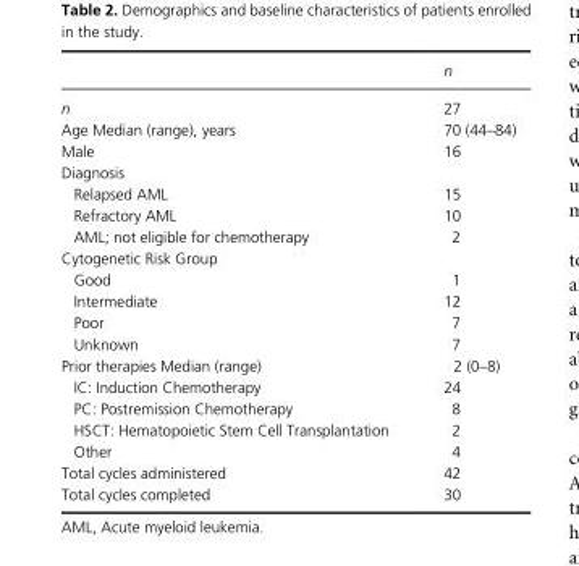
<table><thead><tr><td></td><td>n</td></tr></thead><tbody><tr><td>n</td><td>27</td></tr><tr><td>Age Median (range), years</td><td>70 (44–84)</td></tr><tr><td>Male</td><td>16</td></tr><tr><td colspan="2">Diagnosis</td></tr><tr><td>Relapsed AML</td><td>15</td></tr><tr><td>Refractory AML</td><td>10</td></tr><tr><td>AML; not eligible for chemotherapy</td><td>2</td></tr><tr><td colspan="2">Cytogenetic Risk Group</td></tr><tr><td>Good</td><td>1</td></tr><tr><td>Intermediate</td><td>12</td></tr><tr><td>Poor</td><td>7</td></tr><tr><td>Unknown</td><td>7</td></tr><tr><td>Prior therapies Median (range)</td><td>2 (0–8)</td></tr><tr><td>IC: Induction Chemotherapy</td><td>24</td></tr><tr><td>PC: Postremission Chemotherapy</td><td>8</td></tr><tr><td>HSCT: Hematopoietic Stem Cell Transplantation</td><td>2</td></tr><tr><td>Other</td><td>4</td></tr><tr><td>Total cycles administered</td><td>42</td></tr><tr><td>Total cycles completed</td><td>30</td></tr></tbody></table>